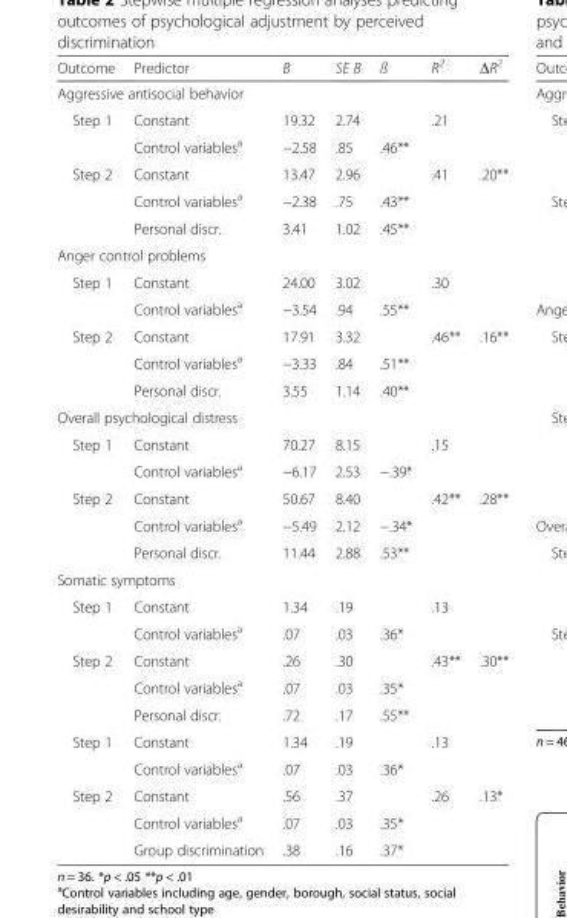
<table><thead><tr><td>Outcome</td><td>Predictor</td><td>B</td><td>SE B</td><td>ß</td><td>R<sup>2</sup></td><td>ΔR<sup>2</sup></td></tr></thead><tbody><tr><td colspan="7">Aggressive antisocial behavior</td></tr><tr><td rowspan="2">Step 1</td><td>Constant</td><td>19.32</td><td>2.74</td><td></td><td>.21</td><td></td></tr><tr><td>Control variables<sup>a</sup></td><td>−2.58</td><td>.85</td><td>.46**</td><td></td><td></td></tr><tr><td rowspan="3">Step 2</td><td>Constant</td><td>13.47</td><td>2.96</td><td></td><td>.41</td><td>.20**</td></tr><tr><td>Control variables<sup>a</sup></td><td>−2.38</td><td>.75</td><td>.43**</td><td></td><td></td></tr><tr><td>Personal discr.</td><td>3.41</td><td>1.02</td><td>.45**</td><td></td><td></td></tr><tr><td colspan="7">Anger control problems</td></tr><tr><td rowspan="2">Step 1</td><td>Constant</td><td>24.00</td><td>3.02</td><td></td><td>.30</td><td></td></tr><tr><td>Control variables<sup>a</sup></td><td>−3.54</td><td>.94</td><td>.55**</td><td></td><td></td></tr><tr><td rowspan="3">Step 2</td><td>Constant</td><td>17.91</td><td>3.32</td><td></td><td>.46**</td><td>.16**</td></tr><tr><td>Control variables<sup>a</sup></td><td>−3.33</td><td>.84</td><td>.51**</td><td></td><td></td></tr><tr><td>Personal discr.</td><td>3.55</td><td>1.14</td><td>.40**</td><td></td><td></td></tr><tr><td colspan="7">Overall psychological distress</td></tr><tr><td rowspan="2">Step 1</td><td>Constant</td><td>70.27</td><td>8.15</td><td></td><td>.15</td><td></td></tr><tr><td>Control variables<sup>a</sup></td><td>−6.17</td><td>2.53</td><td>−.39*</td><td></td><td></td></tr><tr><td rowspan="3">Step 2</td><td>Constant</td><td>50.67</td><td>8.40</td><td></td><td>.42**</td><td>.28**</td></tr><tr><td>Control variables<sup>a</sup></td><td>−5.49</td><td>2.12</td><td>−.34*</td><td></td><td></td></tr><tr><td>Personal discr.</td><td>11.44</td><td>2.88</td><td>.53**</td><td></td><td></td></tr><tr><td colspan="7">Somatic symptoms</td></tr><tr><td rowspan="2">Step 1</td><td>Constant</td><td>1.34</td><td>.19</td><td></td><td>.13</td><td></td></tr><tr><td>Control variables<sup>a</sup></td><td>.07</td><td>.03</td><td>.36*</td><td></td><td></td></tr><tr><td rowspan="3">Step 2</td><td>Constant</td><td>.26</td><td>.30</td><td></td><td>.43**</td><td>.30**</td></tr><tr><td>Control variables<sup>a</sup></td><td>.07</td><td>.03</td><td>.35*</td><td></td><td></td></tr><tr><td>Personal discr.</td><td>.72</td><td>.17</td><td>.55**</td><td></td><td></td></tr><tr><td rowspan="2">Step 1</td><td>Constant</td><td>1.34</td><td>.19</td><td></td><td>.13</td><td></td></tr><tr><td>Control variables<sup>a</sup></td><td>.07</td><td>.03</td><td>.36*</td><td></td><td></td></tr><tr><td rowspan="3">Step 2</td><td>Constant</td><td>.56</td><td>.37</td><td></td><td>.26</td><td>.13*</td></tr><tr><td>Control variables<sup>a</sup></td><td>.07</td><td>.03</td><td>.35*</td><td></td><td></td></tr><tr><td>Group discrimination</td><td>.38</td><td>.16</td><td>.37*</td><td></td><td></td></tr></tbody></table>